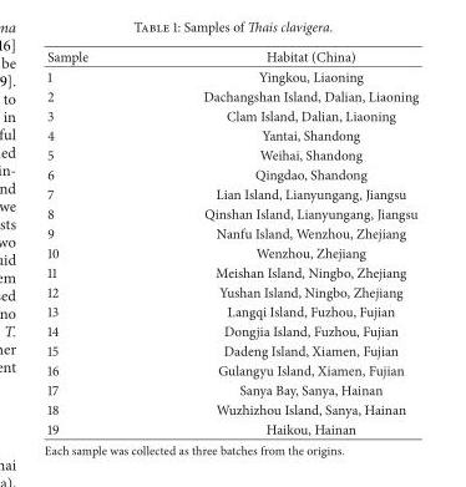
<table><thead><tr><td>Sample</td><td>Habitat (China)</td></tr></thead><tbody><tr><td>1</td><td>Yingkou, Liaoning</td></tr><tr><td>2</td><td>Dachangshan Island, Dalian, Liaoning</td></tr><tr><td>3</td><td>Clam Island, Dalian, Liaoning</td></tr><tr><td>4</td><td>Yantai, Shandong</td></tr><tr><td>5</td><td>Weihai, Shandong</td></tr><tr><td>6</td><td>Qingdao, Shandong</td></tr><tr><td>7</td><td>Lian Island, Lianyungang, Jiangsu</td></tr><tr><td>8</td><td>Qinshan Island, Lianyungang, Jiangsu</td></tr><tr><td>9</td><td>Nanfu Island, Wenzhou, Zhejiang</td></tr><tr><td>10</td><td>Wenzhou, Zhejiang</td></tr><tr><td>11</td><td>Meishan Island, Ningbo, Zhejiang</td></tr><tr><td>12</td><td>Yushan Island, Ningbo, Zhejiang</td></tr><tr><td>13</td><td>Langqi Island, Fuzhou, Fujian</td></tr><tr><td>14</td><td>Dongjia Island, Fuzhou, Fujian</td></tr><tr><td>15</td><td>Dadeng Island, Xiamen, Fujian</td></tr><tr><td>16</td><td>Gulangyu Island, Xiamen, Fujian</td></tr><tr><td>17</td><td>Sanya Bay, Sanya, Hainan</td></tr><tr><td>18</td><td>Wuzhizhou Island, Sanya, Hainan</td></tr><tr><td>19</td><td>Haikou, Hainan</td></tr></tbody></table>